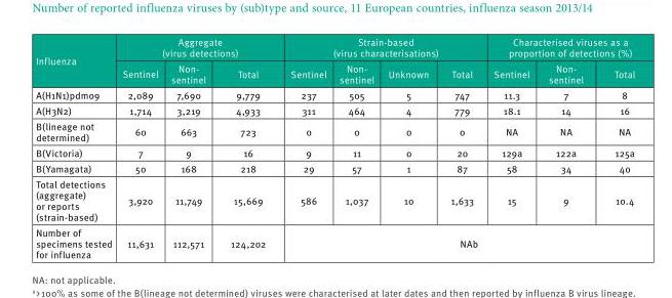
<table><thead><tr><td rowspan="2">Influenza</td><td colspan="3">Aggregate (virus detections)</td><td colspan="4">Strain-based (virus characterisations)</td><td colspan="3">Characterised viruses as a proportion of detections (%)</td></tr><tr><td>Sentinel</td><td>Non- sentinel</td><td>Total</td><td>Sentinel</td><td>Non- sentinel</td><td>Unknown</td><td>Total</td><td>Sentinel</td><td>Non- sentinel</td><td>Total</td></tr></thead><tbody><tr><td>A(H1N1)pdm09</td><td>2,089</td><td>7,690</td><td>9,779</td><td>237</td><td>505</td><td>5</td><td>747</td><td>11.3</td><td>7</td><td>8</td></tr><tr><td>A(H3N2)</td><td>1,714</td><td>3,219</td><td>4,933</td><td>311</td><td>464</td><td>4</td><td>779</td><td>18.1</td><td>14</td><td>16</td></tr><tr><td>B(lineage not determined)</td><td>60</td><td>663</td><td>723</td><td>0</td><td>0</td><td>0</td><td>0</td><td>NA</td><td>NA</td><td>NA</td></tr><tr><td>B(Victoria)</td><td>7</td><td>9</td><td>16</td><td>9</td><td>11</td><td>0</td><td>20</td><td>129<sup>a</sup></td><td>122<sup>a</sup></td><td>125<sup>a</sup></td></tr><tr><td>B(Yamagata)</td><td>50</td><td>168</td><td>218</td><td>29</td><td>57</td><td>1</td><td>87</td><td>58</td><td>34</td><td>40</td></tr><tr><td>Total detections (aggregate) or reports (strain-based)</td><td>3,920</td><td>11,749</td><td>15,669</td><td>586</td><td>1,037</td><td>10</td><td>1,633</td><td>15</td><td>9</td><td>10.4</td></tr><tr><td>Number of specimens tested for influenza</td><td>11,631</td><td>112,571</td><td>124,202</td><td colspan="7">NA<sup>b</sup></td></tr></tbody></table>